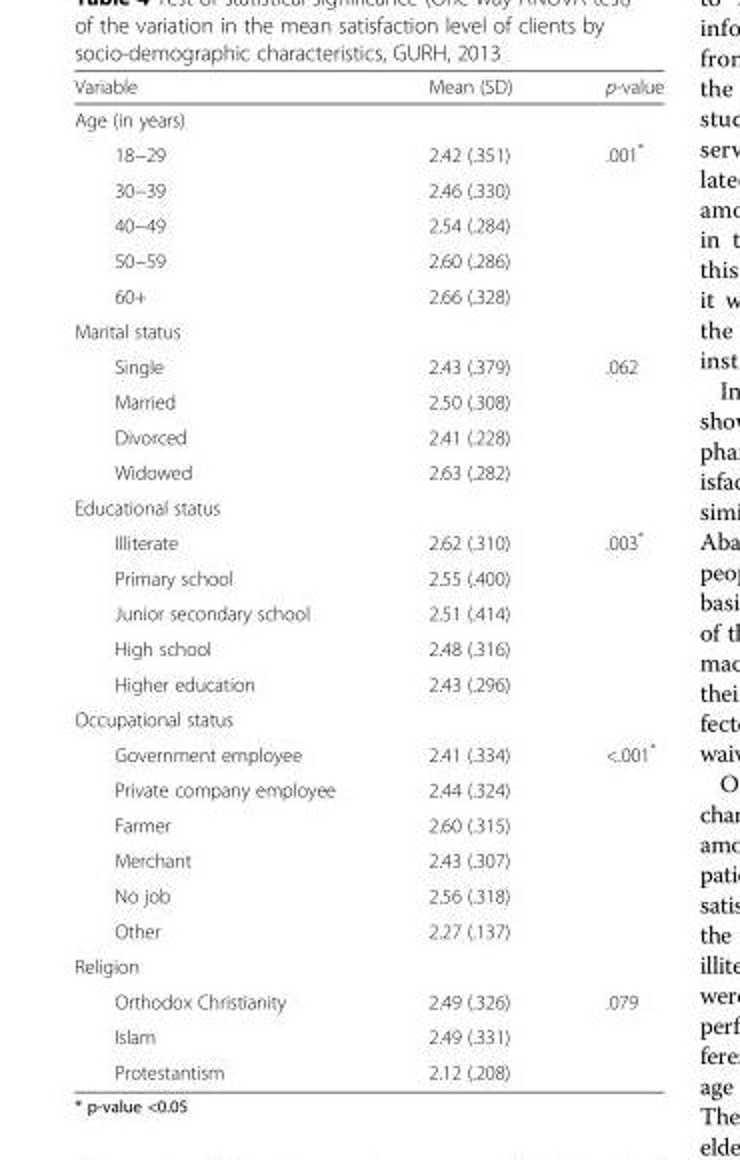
<table><thead><tr><td>Variable</td><td>Mean (SD)</td><td>p-value</td></tr></thead><tbody><tr><td colspan="3">Age (in years)</td></tr><tr><td>18−29</td><td>2.42 (.351)</td><td>.001*</td></tr><tr><td>30−39</td><td>2.46 (.330)</td><td></td></tr><tr><td>40−49</td><td>2.54 (.284)</td><td></td></tr><tr><td>50−59</td><td>2.60 (.286)</td><td></td></tr><tr><td>60+</td><td>2.66 (.328)</td><td></td></tr><tr><td colspan="3">Marital status</td></tr><tr><td>Single</td><td>2.43 (.379)</td><td>.062</td></tr><tr><td>Married</td><td>2.50 (.308)</td><td></td></tr><tr><td>Divorced</td><td>2.41 (.228)</td><td></td></tr><tr><td>Widowed</td><td>2.63 (.282)</td><td></td></tr><tr><td colspan="3">Educational status</td></tr><tr><td>Illiterate</td><td>2.62 (.310)</td><td>.003*</td></tr><tr><td>Primary school</td><td>2.55 (.400)</td><td></td></tr><tr><td>Junior secondary school</td><td>2.51 (.414)</td><td></td></tr><tr><td>High school</td><td>2.48 (.316)</td><td></td></tr><tr><td>Higher education</td><td>2.43 (.296)</td><td></td></tr><tr><td colspan="3">Occupational status</td></tr><tr><td>Government employee</td><td>2.41 (.334)</td><td>&lt;.001*</td></tr><tr><td>Private company employee</td><td>2.44 (.324)</td><td></td></tr><tr><td>Farmer</td><td>2.60 (.315)</td><td></td></tr><tr><td>Merchant</td><td>2.43 (.307)</td><td></td></tr><tr><td>No job</td><td>2.56 (.318)</td><td></td></tr><tr><td>Other</td><td>2.27 (.137)</td><td></td></tr><tr><td colspan="3">Religion</td></tr><tr><td>Orthodox Christianity</td><td>2.49 (.326)</td><td>.079</td></tr><tr><td>Islam</td><td>2.49 (.331)</td><td></td></tr><tr><td>Protestantism</td><td>2.12 (.208)</td><td></td></tr></tbody></table>